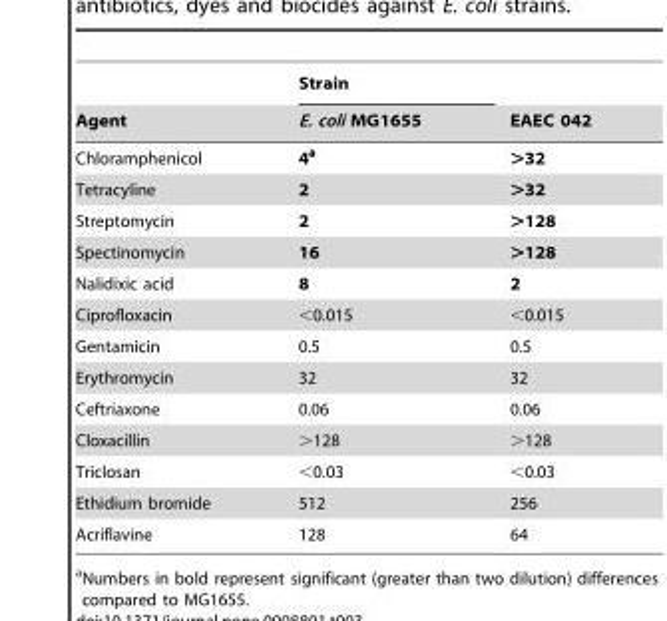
<table><thead><tr><td rowspan="2">Agent</td><td rowspan="2">Strain E. coli MG1655</td><td rowspan="2">EAEC 042</td></tr><tr></tr></thead><tbody><tr><td>Chloramphenicol</td><td>4a</td><td>&gt;32</td></tr><tr><td>Tetracyline</td><td>2</td><td>&gt;32</td></tr><tr><td>Streptomycin</td><td>2</td><td>&gt;128</td></tr><tr><td>Spectinomycin</td><td>16</td><td>&gt;128</td></tr><tr><td>Nalidixic acid</td><td>8</td><td>2</td></tr><tr><td>Ciprofloxacin</td><td>&lt;0.015</td><td>&lt;0.015</td></tr><tr><td>Gentamicin</td><td>0.5</td><td>0.5</td></tr><tr><td>Erythromycin</td><td>32</td><td>32</td></tr><tr><td>Ceftriaxone</td><td>0.06</td><td>0.06</td></tr><tr><td>Cloxacillin</td><td>&gt;128</td><td>&gt;128</td></tr><tr><td>Triclosan</td><td>&lt;0.03</td><td>&lt;0.03</td></tr><tr><td>Ethidium bromide</td><td>512</td><td>256</td></tr><tr><td>Acriflavine</td><td>128</td><td>64</td></tr></tbody></table>